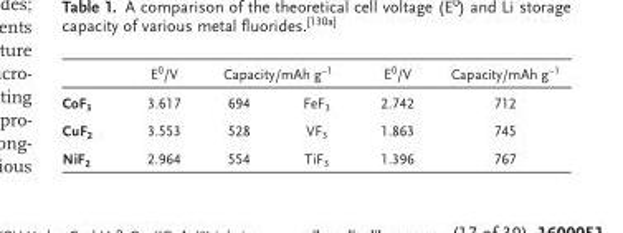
<table><thead><tr><td rowspan="2">CoF <sub>3</sub></td><td rowspan="2">E <sup>0</sup> /V 3.617</td><td colspan="2">Capacity/mAh g <sup>−1</sup></td><td rowspan="2">E <sup>0</sup> /V 2.742</td><td rowspan="2">Capacity/mAh g <sup>−1</sup> 712</td></tr><tr><td>694</td><td>FeF <sub>3</sub></td></tr></thead><tbody><tr><td>CuF <sub>2</sub></td><td>3.553</td><td>528</td><td>VF <sub>3</sub></td><td>1.863</td><td>745</td></tr><tr><td>NiF <sub>2</sub></td><td>2.964</td><td>554</td><td>TiF <sub>3</sub></td><td>1.396</td><td>767</td></tr></tbody></table>